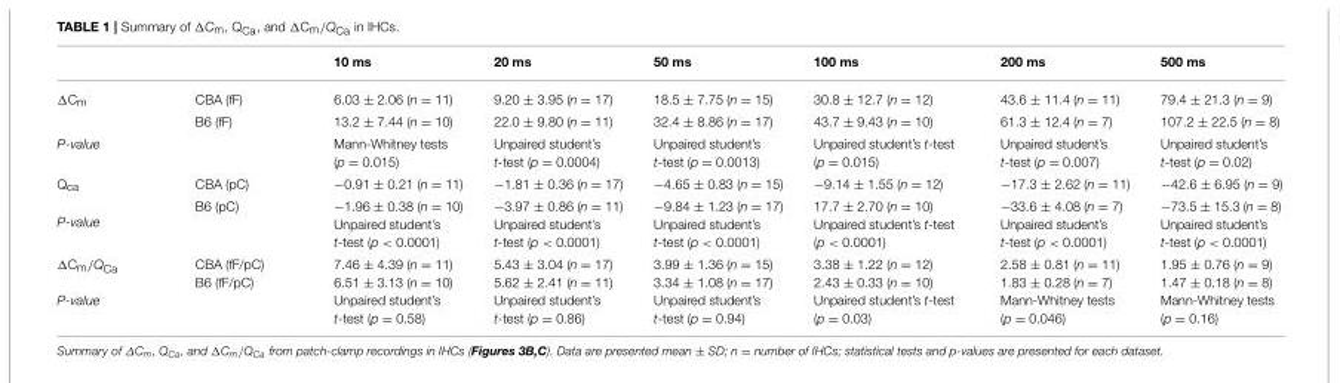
<table><thead><tr><td></td><td></td><td>10 ms</td><td>20 ms</td><td>50 ms</td><td>100 ms</td><td>200 ms</td><td>500 ms</td></tr></thead><tbody><tr><td rowspan="2">ΔC<sub>m</sub></td><td>CBA (fF)</td><td>6.03 ± 2.06 (n = 11)</td><td>9.20 ± 3.95 (n = 17)</td><td>18.5 ± 7.75 (n = 15)</td><td>30.8 ± 12.7 (n = 12)</td><td>43.6 ± 11.4 (n = 11)</td><td>79.4 ± 21.3 (n = 9)</td></tr><tr><td>B6 (fF)</td><td>13.2 ± 7.44 (n = 10)</td><td>22.0 ± 9.80 (n = 11)</td><td>32.4 ± 8.86 (n = 17)</td><td>43.7 ± 9.43 (n = 10)</td><td>61.3 ± 12.4 (n = 7)</td><td>107.2 ± 22.5 (n = 8)</td></tr><tr><td>P-value</td><td></td><td>Mann-Whitney tests (p = 0.015)</td><td>Unpaired student’s t-test (p = 0.0004)</td><td>Unpaired student’s t-test (p = 0.0013)</td><td>Unpaired student’s t-test (p = 0.015)</td><td>Unpaired student’s t-test (p = 0.007)</td><td>Unpaired student’s t-test (p = 0.02)</td></tr><tr><td>Q<sub>ca</sub></td><td>CBA (pC)</td><td>−0.91 ± 0.21 (n = 11)</td><td>−1.81 ± 0.36 (n = 17)</td><td>−4.65 ± 0.83 (n = 15)</td><td>−9.14 ± 1.55 (n = 12)</td><td>−17.3 ± 2.62 (n = 11)</td><td>−42.6 ± 6.95 (n = 9)</td></tr><tr><td>P-value</td><td>B6 (pC)</td><td>−1.96 ± 0.38 (n = 10) Unpaired student’s t-test (p &lt; 0.0001)</td><td>−3.97 ± 0.86 (n = 11) Unpaired student’s t-test (p &lt; 0.0001)</td><td>−9.84 ± 1.23 (n = 17) Unpaired student’s t-test (p &lt; 0.0001)</td><td>17.7 ± 2.70 (n = 10) Unpaired student’s t-test (p &lt; 0.0001)</td><td>−33.6 ± 4.08 (n = 7) Unpaired student’s t-test (p &lt; 0.0001)</td><td>−73.5 ± 15.3 (n = 8) Unpaired student’s t-test (p &lt; 0.0001)</td></tr><tr><td>ΔC<sub>m</sub>/Q<sub>Ca</sub> P-value</td><td>CBA (fF/pC) B6 (fF/pC)</td><td>7.46 ± 4.39 (n = 11) 6.51 ± 3.13 (n = 10) Unpaired student’s t-test (p = 0.58)</td><td>5.43 ± 3.04 (n = 17) 5.62 ± 2.41 (n = 11) Unpaired student’s t-test (p = 0.86)</td><td>3.99 ± 1.36 (n = 15) 3.34 ± 1.08 (n = 17) Unpaired student’s t-test (p = 0.94)</td><td>3.38 ± 1.22 (n = 12) 2.43 ± 0.33 (n = 10) Unpaired student’s t-test (p = 0.03)</td><td>2.58 ± 0.81 (n = 11) 1.83 ± 0.28 (n = 7) Mann-Whitney tests (p = 0.046)</td><td>1.95 ± 0.76 (n = 9) 1.47 ± 0.18 (n = 8) Mann-Whitney tests (p = 0.16)</td></tr></tbody></table>